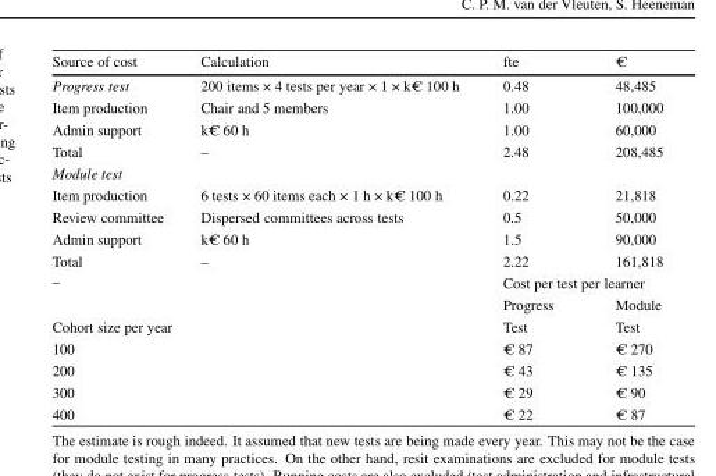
<table><thead><tr><td>Source of cost</td><td>Calculation</td><td>fte</td><td>€</td></tr></thead><tbody><tr><td>Progress test</td><td>200 items × 4 tests per year × 1 × k€ 100 h</td><td>0.48</td><td>48,485</td></tr><tr><td>Item production</td><td>Chair and 5 members</td><td>1.00</td><td>100,000</td></tr><tr><td>Admin support</td><td>k€ 60 h</td><td>1.00</td><td>60,000</td></tr><tr><td>Total</td><td>–</td><td>2.48</td><td>208,485</td></tr><tr><td colspan="4">Module test</td></tr><tr><td>Item production</td><td>6 tests × 60 items each × 1 h × k€ 100 h</td><td>0.22</td><td>21,818</td></tr><tr><td>Review committee</td><td>Dispersed committees across tests</td><td>0.5</td><td>50,000</td></tr><tr><td>Admin support</td><td>k€ 60 h</td><td>1.5</td><td>90,000</td></tr><tr><td>Total</td><td>–</td><td>2.22</td><td>161,818</td></tr><tr><td rowspan="2" colspan="2">–</td><td colspan="2">Cost per test per learner</td></tr><tr><td>Progress</td><td>Module</td></tr><tr><td colspan="2">Cohort size per year</td><td>Test</td><td>Test</td></tr><tr><td colspan="2">100</td><td>€ 87</td><td>€ 270</td></tr><tr><td colspan="2">200</td><td>€ 43</td><td>€ 135</td></tr><tr><td colspan="2">300</td><td>€ 29</td><td>€ 90</td></tr><tr><td colspan="2">400</td><td>€ 22</td><td>€ 87</td></tr></tbody></table>